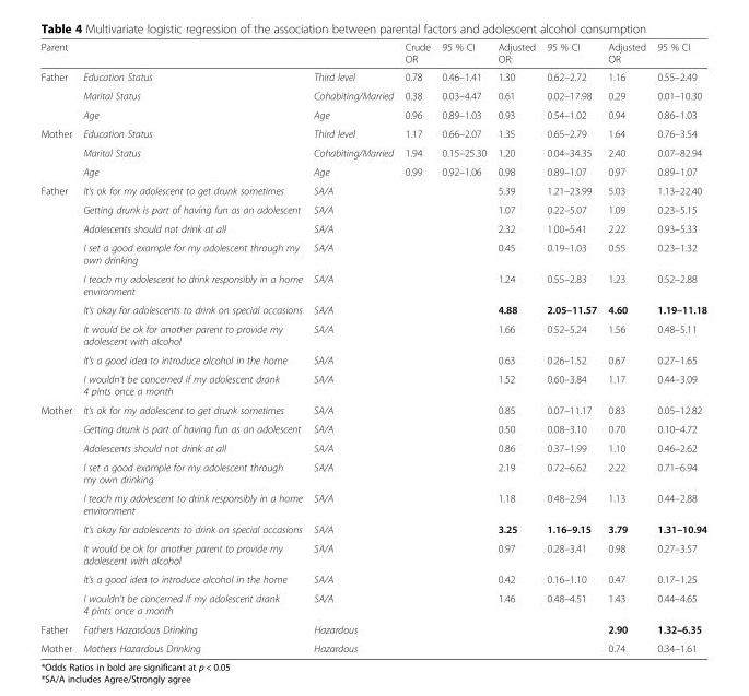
<table><thead><tr><td>Parent</td><td></td><td></td><td>Crude OR</td><td>95 % CI</td><td>Adjusted OR:</td><td>95 % CI</td><td>Adjusted OR</td><td>95 % CI</td></tr></thead><tbody><tr><td rowspan="3">Father</td><td>Education Status</td><td>Third level</td><td>0.78</td><td>0.46–1.41</td><td>1.30</td><td>0.62–2.72</td><td>1.16</td><td>0.55–2.49</td></tr><tr><td>Marital Status</td><td>Cohabiting/Married</td><td>0.38</td><td>0.03–4.47</td><td>0.61</td><td>0.02–17.98</td><td>0.29</td><td>0.01–10.30</td></tr><tr><td>Age</td><td>Age</td><td>0.96</td><td>0.89–1.03</td><td>0.93</td><td>0.54–1.02</td><td>0.94</td><td>0.86–1.03</td></tr><tr><td rowspan="3">Mother</td><td>Education Status</td><td>Third level</td><td>1.17</td><td>0.66–2.07</td><td>1.35</td><td>0.65–2.79</td><td>1.64</td><td>0.76–3.54</td></tr><tr><td>Marital Status</td><td>Cohabiting/Married</td><td>1.94</td><td>0.15–25.30</td><td>1.20</td><td>0.04–34.35</td><td>2.40</td><td>0.07–82.94</td></tr><tr><td>Age</td><td>Age</td><td>0.99</td><td>0.92–1.06</td><td>0.98</td><td>0.89–1.07</td><td>0.97</td><td>0.89–1.07</td></tr><tr><td rowspan="9">Father</td><td>It’s ok for my adolescent to get drunk sometimes</td><td>SA/A</td><td></td><td></td><td>5.39</td><td>1.21–23.99</td><td>5.03</td><td>1.13–22.40</td></tr><tr><td>Getting drunk is part of having fun as an adolescent</td><td>SA/A</td><td></td><td></td><td>1.07</td><td>0.22–5.07</td><td>1.09</td><td>0.23–5.15</td></tr><tr><td>Adolescents should not drink at all</td><td>SA/A</td><td></td><td></td><td>2.32</td><td>1.00–5.41</td><td>2.22</td><td>0.93–5.33</td></tr><tr><td>I set a good example for my adolescent through my own drinking</td><td>SA/A</td><td></td><td></td><td>0.45</td><td>0.19–1.03</td><td>0.55</td><td>0.23–1.32</td></tr><tr><td>I teach my adolescent to drink responsibly in a home environment</td><td>SA/A</td><td></td><td></td><td>1.24</td><td>0.55–2.83</td><td>1.23</td><td>0.52–2.88</td></tr><tr><td>It’s okay for adolescents to drink on special occasions</td><td>SA/A</td><td></td><td></td><td>4.88</td><td>2.05–11.57</td><td>4.60</td><td>1.19–11.18</td></tr><tr><td>It would be ok for another parent to provide my adolescent with alcohol</td><td>SA/A</td><td></td><td></td><td>1.66</td><td>0.52–5.24</td><td>1.56</td><td>0.48–5.11</td></tr><tr><td>It’s a good idea to introduce alcohol in the home</td><td>SA/A</td><td></td><td></td><td>0.63</td><td>0.26–1.52</td><td>0.67</td><td>0.27–1.65</td></tr><tr><td>I wouldn’t be concerned if my adolescent drank 4 pints once a month</td><td>SA/A</td><td></td><td></td><td>1.52</td><td>0.60–3.84</td><td>1.17</td><td>0.44–3.09</td></tr><tr><td rowspan="9">Mother</td><td>It’s ok for my adolescent to get drunk sometimes</td><td>SA/A</td><td></td><td></td><td>0.85</td><td>0.07–11.17</td><td>0.83</td><td>0.05–12.82</td></tr><tr><td>Getting drunk is part of having fun as an adolescent</td><td>SA/A</td><td></td><td></td><td>0.50</td><td>0.08–3.10</td><td>0.70</td><td>0.10–4.72</td></tr><tr><td>Adolescents should not drink at all</td><td>SA/A</td><td></td><td></td><td>0.86</td><td>0.37–1.99</td><td>1.10</td><td>0.46–2.62</td></tr><tr><td>I set a good example for my adolescent through my own drinking</td><td>SA/A</td><td></td><td></td><td>2.19</td><td>0.72–6.62</td><td>2.22</td><td>0.71–6.94</td></tr><tr><td>I teach my adolescent to drink responsibly in a home environment</td><td>SA/A</td><td></td><td></td><td>1.18</td><td>0.48–2.94</td><td>1.13</td><td>0.44–2.88</td></tr><tr><td>It’s okay for adolescents to drink on special occasions</td><td>SA/A</td><td></td><td></td><td>3.25</td><td>1.16–9.15</td><td>3.79</td><td>1.31–10.94</td></tr><tr><td>It would be ok for another parent to provide my adolescent with alcohol</td><td>SA/A</td><td></td><td></td><td>0.97</td><td>0.28–3.41</td><td>0.98</td><td>0.27–3.57</td></tr><tr><td>It’s a good idea to introduce alcohol in the home</td><td>SA/A</td><td></td><td></td><td>0.42</td><td>0.16–1.10</td><td>0.47</td><td>0.17–1.25</td></tr><tr><td>I wouldn’t be concerned if my adolescent drank 4 pints once a month</td><td>SA/A</td><td></td><td></td><td>1.46</td><td>0.48–4.51</td><td>1.43</td><td>0.44–4.65</td></tr><tr><td>Father</td><td>Fathers Hazardous Drinking</td><td>Hazardous</td><td></td><td></td><td></td><td></td><td>2.90</td><td>1.32–6.35</td></tr><tr><td>Mother</td><td>Mothers Hazardous Drinking</td><td>Hazardous</td><td></td><td></td><td></td><td></td><td>0.74</td><td>0.34–1.61</td></tr></tbody></table>